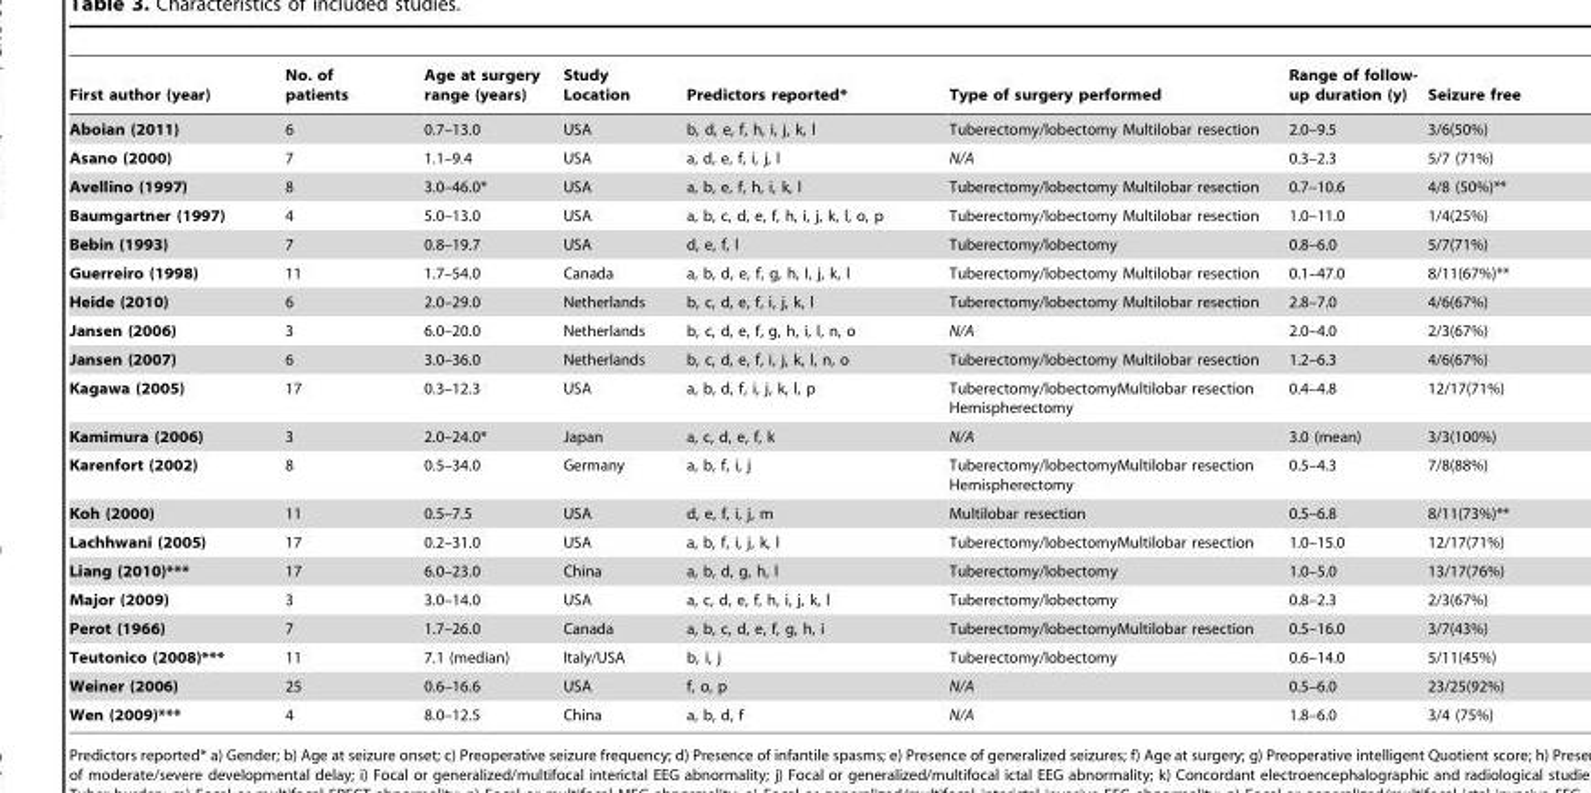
<table><thead><tr><td>First author (year)</td><td>No. of patients</td><td>Age at surgery range (years)</td><td>Study Location</td><td>Predictors reported*</td><td>Type of surgery performed</td><td>Range of follow- up duration (y)</td><td>Seizure free</td></tr></thead><tbody><tr><td>Aboian (2011)</td><td>6</td><td>0.7–13.0</td><td>USA</td><td>b, d, e, f, h, i, j, k, l</td><td>Tuberectomy/lobectomy Multilobar resection</td><td>2.0–9.5</td><td>3/6(50%)</td></tr><tr><td>Asano (2000)</td><td>7</td><td>1.1–9.4</td><td>USA</td><td>a, d, e, f, i, j, l</td><td>N/A</td><td>0.3–2.3</td><td>5/7 (71%)</td></tr><tr><td>Avellino (1997)</td><td>8</td><td>3.0–46.0*</td><td>USA</td><td>a, b, e, f, h, i, k, l</td><td>Tuberectomy/lobectomy Multilobar resection</td><td>0.7–10.6</td><td>4/8 (50%)**</td></tr><tr><td>Baumgartner (1997)</td><td>4</td><td>5.0–13.0</td><td>USA</td><td>a, b, c, d, e, f, h, i, j, k, l, o, p</td><td>Tuberectomy/lobectomy Multilobar resection</td><td>1.0–11.0</td><td>1/4(25%)</td></tr><tr><td>Bebin (1993)</td><td>7</td><td>0.8–19.7</td><td>USA</td><td>d, e, f, l</td><td>Tuberectomy/lobectomy</td><td>0.8–6.0</td><td>5/7(71%)</td></tr><tr><td>Guerreiro (1998)</td><td>11</td><td>1.7–54.0</td><td>Canada</td><td>a, b, d, e, f, g, h, I, j, k, l</td><td>Tuberectomy/lobectomy Multilobar resection</td><td>0.1–47.0</td><td>8/11(67%)**</td></tr><tr><td>Heide (2010)</td><td>6</td><td>2.0–29.0</td><td>Netherlands</td><td>b, c, d, e, f, i, j, k, l</td><td>Tuberectomy/lobectomy Multilobar resection</td><td>2.8–7.0</td><td>4/6(67%)</td></tr><tr><td>Jansen (2006)</td><td>3</td><td>6.0–20.0</td><td>Netherlands</td><td>b, c, d, e, f, g, h, i, l, n, o</td><td>N/A</td><td>2.0–4.0</td><td>2/3(67%)</td></tr><tr><td>Jansen (2007)</td><td>6</td><td>3.0–36.0</td><td>Netherlands</td><td>b, c, d, e, f, i, j, k, l, n, o</td><td>Tuberectomy/lobectomy Multilobar resection</td><td>1.2–6.3</td><td>4/6(67%)</td></tr><tr><td>Kagawa (2005)</td><td>17</td><td>0.3–12.3</td><td>USA</td><td>a, b, d, f, i, j, k, l, p</td><td>Tuberectomy/lobectomyMultilobar resection Hemispherectomy</td><td>0.4–4.8</td><td>12/17(71%)</td></tr><tr><td>Kamimura (2006)</td><td>3</td><td>2.0–24.0*</td><td>Japan</td><td>a, c, d, e, f, k</td><td>N/A</td><td>3.0 (mean)</td><td>3/3(100%)</td></tr><tr><td>Karenfort (2002)</td><td>8</td><td>0.5–34.0</td><td>Germany</td><td>a, b, f, i, j</td><td>Tuberectomy/lobectomyMultilobar resection Hemispherectomy</td><td>0.5–4.3</td><td>7/8(88%)</td></tr><tr><td>Koh (2000)</td><td>11</td><td>0.5–7.5</td><td>USA</td><td>d, e, f, i, j, m</td><td>Multilobar resection</td><td>0.5–6.8</td><td>8/11(73%)**</td></tr><tr><td>Lachhwani (2005)</td><td>17</td><td>0.2–31.0</td><td>USA</td><td>a, b, f, i, j, k, l</td><td>Tuberectomy/lobectomyMultilobar resection</td><td>1.0–15.0</td><td>12/17(71%)</td></tr><tr><td>Liang (2010)***</td><td>17</td><td>6.0–23.0</td><td>China</td><td>a, b, d, g, h, l</td><td>Tuberectomy/lobectomy</td><td>1.0–5.0</td><td>13/17(76%)</td></tr><tr><td>Major (2009)</td><td>3</td><td>3.0–14.0</td><td>USA</td><td>a, c, d, e, f, h, i, j, k, l</td><td>Tuberectomy/lobectomy</td><td>0.8–2.3</td><td>2/3(67%)</td></tr><tr><td>Perot (1966)</td><td>7</td><td>1.7–26.0</td><td>Canada</td><td>a, b, c, d, e, f, g, h, i</td><td>Tuberectomy/lobectomyMultilobar resection</td><td>0.5–16.0</td><td>3/7(43%)</td></tr><tr><td>Teutonico (2008)***</td><td>11</td><td>7.1 (median)</td><td>Italy/USA</td><td>b, i, j</td><td>Tuberectomy/lobectomy</td><td>0.6–14.0</td><td>5/11(45%)</td></tr><tr><td>Weiner (2006)</td><td>25</td><td>0.6–16.6</td><td>USA</td><td>f, o, p</td><td>N/A</td><td>0.5–6.0</td><td>23/25(92%)</td></tr><tr><td>Wen (2009)***</td><td>4</td><td>8.0–12.5</td><td>China</td><td>a, b, d, f</td><td>N/A</td><td>1.8–6.0</td><td>3/4 (75%)</td></tr></tbody></table>